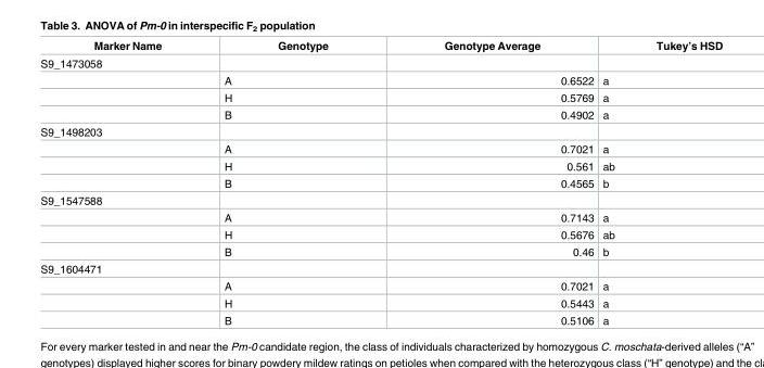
<table><thead><tr><td>Marker Name</td><td>Genotype</td><td>Genotype Average</td><td>Tukey’s HSD</td></tr></thead><tbody><tr><td colspan="4">S9_1473058</td></tr><tr><td></td><td>A</td><td>0.6522</td><td>a</td></tr><tr><td></td><td>H</td><td>0.5769</td><td>a</td></tr><tr><td></td><td>B</td><td>0.4902</td><td>a</td></tr><tr><td colspan="4">S9_1498203</td></tr><tr><td></td><td>A</td><td>0.7021</td><td>a</td></tr><tr><td></td><td>H</td><td>0.561</td><td>ab</td></tr><tr><td></td><td>B</td><td>0.4565</td><td>b</td></tr><tr><td colspan="4">S9_1547588</td></tr><tr><td></td><td>A</td><td>0.7143</td><td>a</td></tr><tr><td></td><td>H</td><td>0.5676</td><td>ab</td></tr><tr><td></td><td>B</td><td>0.46</td><td>b</td></tr><tr><td colspan="4">S9_1604471</td></tr><tr><td></td><td>A</td><td>0.7021</td><td>a</td></tr><tr><td></td><td>H</td><td>0.5443</td><td>a</td></tr><tr><td></td><td>B</td><td>0.5106</td><td>a</td></tr></tbody></table>